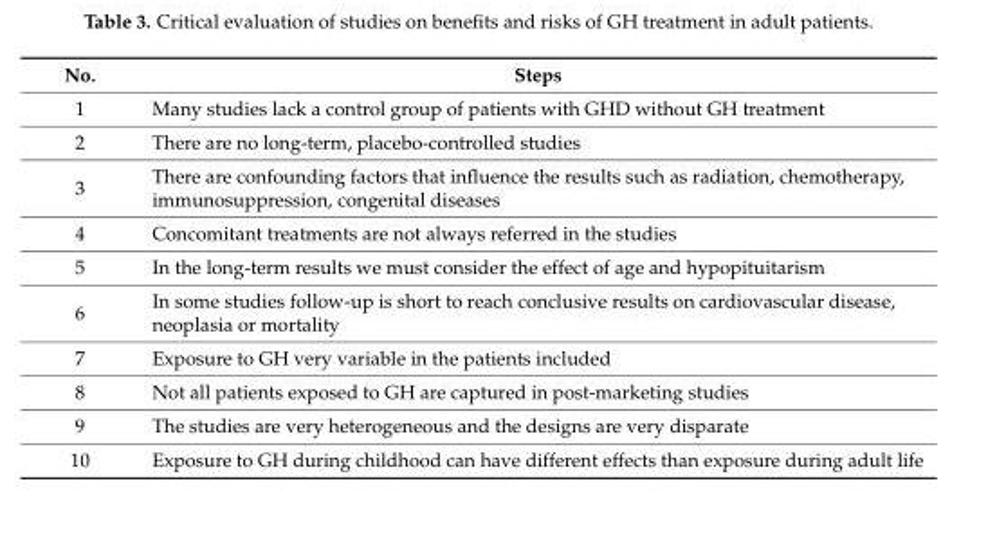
<table><thead><tr><td>No.</td><td>Steps</td></tr></thead><tbody><tr><td>1</td><td>Many studies lack a control group of patients with GHD without GH treatment</td></tr><tr><td>2</td><td>There are no long-term, placebo-controlled studies</td></tr><tr><td>3</td><td>There are confounding factors that influence the results such as radiation, chemotherapy, immunosuppression, congenital diseases</td></tr><tr><td>4</td><td>Concomitant treatments are not always referred in the studies</td></tr><tr><td>5</td><td>In the long-term results we must consider the effect of age and hypopituitarism</td></tr><tr><td>6</td><td>In some studies follow-up is short to reach conclusive results on cardiovascular disease, neoplasia or mortality</td></tr><tr><td>7</td><td>Exposure to GH very variable in the patients included</td></tr><tr><td>8</td><td>Not all patients exposed to GH are captured in post-marketing studies</td></tr><tr><td>9</td><td>The studies are very heterogeneous and the designs are very disparate</td></tr><tr><td>10</td><td>Exposure to GH during childhood can have different effects than exposure during adult life</td></tr></tbody></table>